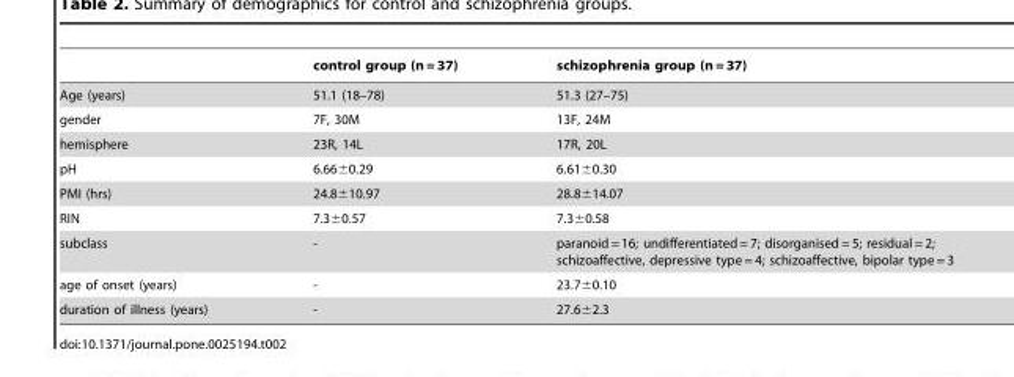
<table><thead><tr><td></td><td>control group (n = 37)</td><td>schizophrenia group (n = 37)</td></tr></thead><tbody><tr><td>Age (years)</td><td>51.1 (18–78)</td><td>51.3 (27–75)</td></tr><tr><td>gender</td><td>7F, 30M</td><td>13F, 24M</td></tr><tr><td>hemisphere</td><td>23R, 14L</td><td>17R, 20L</td></tr><tr><td>pH</td><td>6.66±0.29</td><td>6.61±0.30</td></tr><tr><td>PMI (hrs)</td><td>24.8±10.97</td><td>28.8±14.07</td></tr><tr><td>RIN</td><td>7.3±0.57</td><td>7.3±0.58</td></tr><tr><td>subclass</td><td>-</td><td>paranoid = 16; undifferentiated = 7; disorganised = 5; residual = 2; schizoaffective, depressive type = 4; schizoaffective, bipolar type = 3</td></tr><tr><td>age of onset (years)</td><td>-</td><td>23.7±0.10</td></tr><tr><td>duration of illness (years)</td><td>-</td><td>27.6±2.3</td></tr></tbody></table>